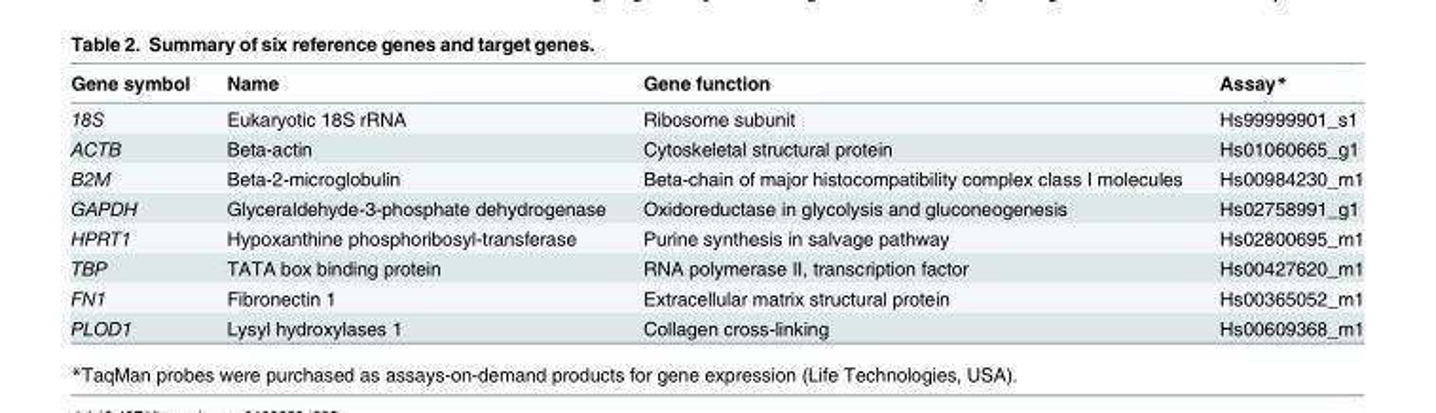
<table><thead><tr><td>Gene symbol</td><td>Name</td><td>Gene function</td><td>Assay*</td></tr></thead><tbody><tr><td>18S</td><td>Eukaryotic 18S rRNA</td><td>Ribosome subunit</td><td>Hs99999901_s1</td></tr><tr><td>ACTB</td><td>Beta-actin</td><td>Cytoskeletal structural protein</td><td>Hs01060665_g1</td></tr><tr><td>B2M</td><td>Beta-2-microglobulin</td><td>Beta-chain of major histocompatibility complex class I molecules</td><td>Hs00984230_m1</td></tr><tr><td>GAPDH</td><td>Glyceraldehyde-3-phosphate dehydrogenase</td><td>Oxidoreductase in glycolysis and gluconeogenesis</td><td>Hs02758991_g1</td></tr><tr><td>HPRT1</td><td>Hypoxanthine phosphoribosyl-transferase</td><td>Purine synthesis in salvage pathway</td><td>Hs02800695_m1</td></tr><tr><td>TBP</td><td>TATA box binding protein</td><td>RNA polymerase II, transcription factor</td><td>Hs00427620_m1</td></tr><tr><td>FN1</td><td>Fibronectin 1</td><td>Extracellular matrix structural protein</td><td>Hs00365052_m1</td></tr><tr><td>PLOD1</td><td>Lysyl hydroxylases 1</td><td>Collagen cross-linking</td><td>Hs00609368_m1</td></tr></tbody></table>